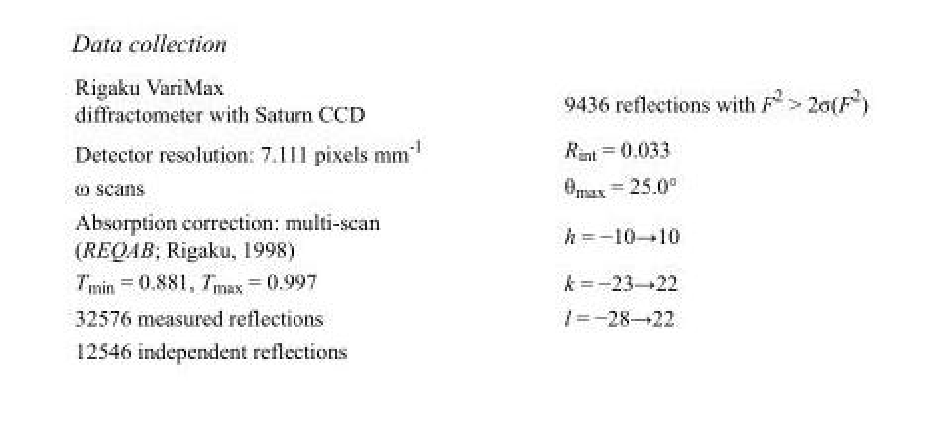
<table><tbody><tr><td>Rigaku VariMax diffractometer with Saturn CCD</td><td>9436 reflections with F<sup>2</sup> &gt; 2σ(F<sup>2</sup>)</td></tr><tr><td>Detector resolution: 7.111 pixels mm<sup>-1</sup></td><td>R<sub>int</sub> = 0.033</td></tr><tr><td>ω scans</td><td>θ<sub>max</sub> = 25.0°</td></tr><tr><td>Absorption correction: multi-scan (REQAB; Rigaku, 1998)</td><td>h = −10→10</td></tr><tr><td>T<sub>min</sub> = 0.881, T<sub>max</sub> = 0.997</td><td>k = −23→22</td></tr><tr><td>32576 measured reflections</td><td>l = −28→22</td></tr><tr><td>12546 independent reflections</td><td></td></tr></tbody></table>